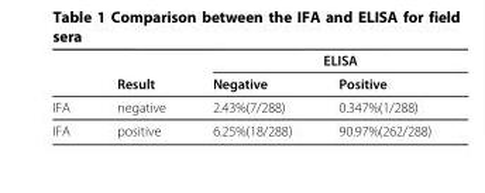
<table><thead><tr><td rowspan="2"></td><td rowspan="2">Result</td><td colspan="2">ELISA</td></tr><tr><td>Negative</td><td>Positive</td></tr></thead><tbody><tr><td>IFA</td><td>negative</td><td>2.43%(7/288)</td><td>0.347%(1/288)</td></tr><tr><td>IFA</td><td>positive</td><td>6.25%(18/288)</td><td>90.97%(262/288)</td></tr></tbody></table>